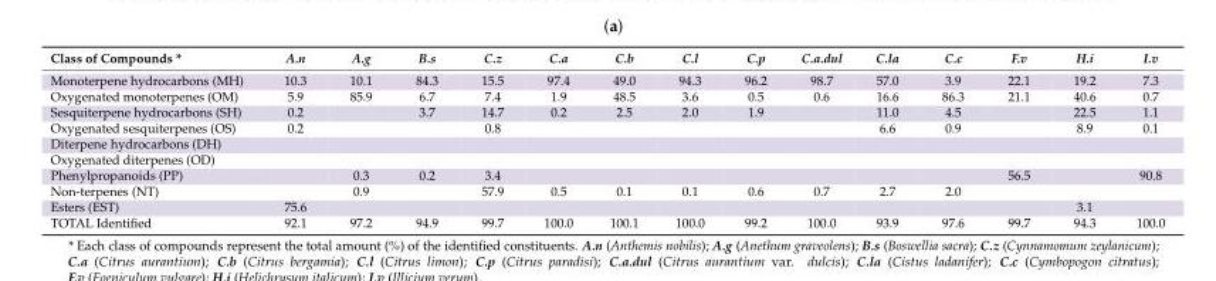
<table><thead><tr><td>Class of Compounds *</td><td>A.n</td><td>A.g</td><td>B.s</td><td>C.z</td><td>C.a</td><td>C.b</td><td>C.l</td><td>C.p</td><td>C.a.dul</td><td>C.la</td><td>C.c</td><td>F.v</td><td>H.i</td><td>I.v</td></tr></thead><tbody><tr><td>Monoterpene hydrocarbons (MH)</td><td>10.3</td><td>10.1</td><td>84.3</td><td>15.5</td><td>97.4</td><td>49.0</td><td>94.3</td><td>96.2</td><td>98.7</td><td>57.0</td><td>3.9</td><td>22.1</td><td>19.2</td><td>7.3</td></tr><tr><td>Oxygenated monoterpenes (OM)</td><td>5.9</td><td>85.9</td><td>6.7</td><td>7.4</td><td>1.9</td><td>48.5</td><td>3.6</td><td>0.5</td><td>0.6</td><td>16.6</td><td>86.3</td><td>21.1</td><td>40.6</td><td>0.7</td></tr><tr><td>Sesquiterpene hydrocarbons (SH)</td><td>0.2</td><td></td><td>3.7</td><td>14.7</td><td>0.2</td><td>2.5</td><td>2.0</td><td>1.9</td><td></td><td>11.0</td><td>4.5</td><td></td><td>22.5</td><td>1.1</td></tr><tr><td>Oxygenated sesquiterpenes (OS)</td><td>0.2</td><td></td><td></td><td>0.8</td><td></td><td></td><td></td><td></td><td></td><td>6.6</td><td>0.9</td><td></td><td>8.9</td><td>0.1</td></tr><tr><td colspan="15">Diterpene hydrocarbons (DH)</td></tr><tr><td colspan="15">Oxygenated diterpenes (OD)</td></tr><tr><td>Phenylpropanoids (PP)</td><td></td><td>0.3</td><td>0.2</td><td>3.4</td><td></td><td></td><td></td><td></td><td></td><td></td><td></td><td>56.5</td><td></td><td>90.8</td></tr><tr><td>Non-terpenes (NT)</td><td></td><td>0.9</td><td></td><td>57.9</td><td>0.5</td><td>0.1</td><td>0.1</td><td>0.6</td><td>0.7</td><td>2.7</td><td>2.0</td><td></td><td></td><td></td></tr><tr><td>Esters (EST)</td><td>75.6</td><td></td><td></td><td></td><td></td><td></td><td></td><td></td><td></td><td></td><td></td><td></td><td>3.1</td><td></td></tr><tr><td>TOTAL Identified</td><td>92.1</td><td>97.2</td><td>94.9</td><td>99.7</td><td>100.0</td><td>100.1</td><td>100.0</td><td>99.2</td><td>100.0</td><td>93.9</td><td>97.6</td><td>99.7</td><td>94.3</td><td>100.0</td></tr></tbody></table>